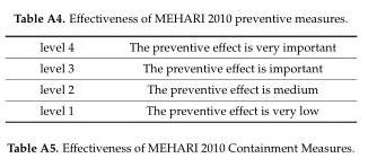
<table><tbody><tr><td>level 4</td><td>The preventive effect is very important</td></tr><tr><td>level 3</td><td>The preventive effect is important</td></tr><tr><td>level 2</td><td>The preventive effect is medium</td></tr><tr><td>level 1</td><td>The preventive effect is very low</td></tr></tbody></table>